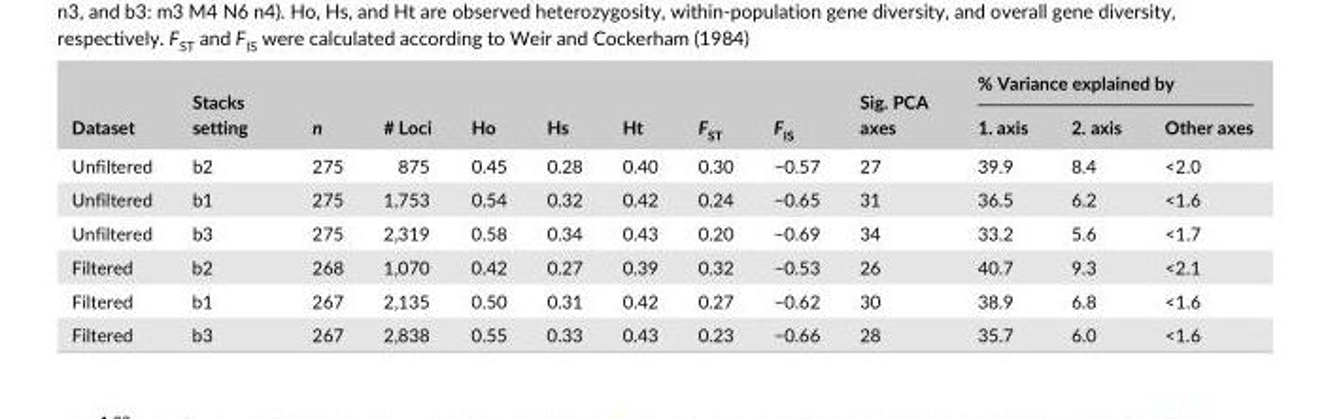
<table><thead><tr><td rowspan="2">Dataset</td><td rowspan="2">Stacks setting</td><td rowspan="2">n</td><td rowspan="2"># Loci</td><td rowspan="2">Ho</td><td rowspan="2">Hs</td><td rowspan="2">Ht</td><td rowspan="2">F<sub>ST</sub></td><td rowspan="2">F<sub>IS</sub></td><td rowspan="2">Sig. PCA axes</td><td colspan="3">% Variance explained by</td></tr><tr><td>1. axis</td><td>2. axis</td><td>Other axes</td></tr></thead><tbody><tr><td>Unfiltered</td><td>b2</td><td>275</td><td>875</td><td>0.45</td><td>0.28</td><td>0.40</td><td>0.30</td><td>−0.57</td><td>27</td><td>39.9</td><td>8.4</td><td>&lt;2.0</td></tr><tr><td>Unfiltered</td><td>b1</td><td>275</td><td>1,753</td><td>0.54</td><td>0.32</td><td>0.42</td><td>0.24</td><td>−0.65</td><td>31</td><td>36.5</td><td>6.2</td><td>&lt;1.6</td></tr><tr><td>Unfiltered</td><td>b3</td><td>275</td><td>2,319</td><td>0.58</td><td>0.34</td><td>0.43</td><td>0.20</td><td>−0.69</td><td>34</td><td>33.2</td><td>5.6</td><td>&lt;1.7</td></tr><tr><td>Filtered</td><td>b2</td><td>268</td><td>1,070</td><td>0.42</td><td>0.27</td><td>0.39</td><td>0.32</td><td>−0.53</td><td>26</td><td>40.7</td><td>9.3</td><td>&lt;2.1</td></tr><tr><td>Filtered</td><td>b1</td><td>267</td><td>2,135</td><td>0.50</td><td>0.31</td><td>0.42</td><td>0.27</td><td>−0.62</td><td>30</td><td>38.9</td><td>6.8</td><td>&lt;1.6</td></tr><tr><td>Filtered</td><td>b3</td><td>267</td><td>2,838</td><td>0.55</td><td>0.33</td><td>0.43</td><td>0.23</td><td>−0.66</td><td>28</td><td>35.7</td><td>6.0</td><td>&lt;1.6</td></tr></tbody></table>